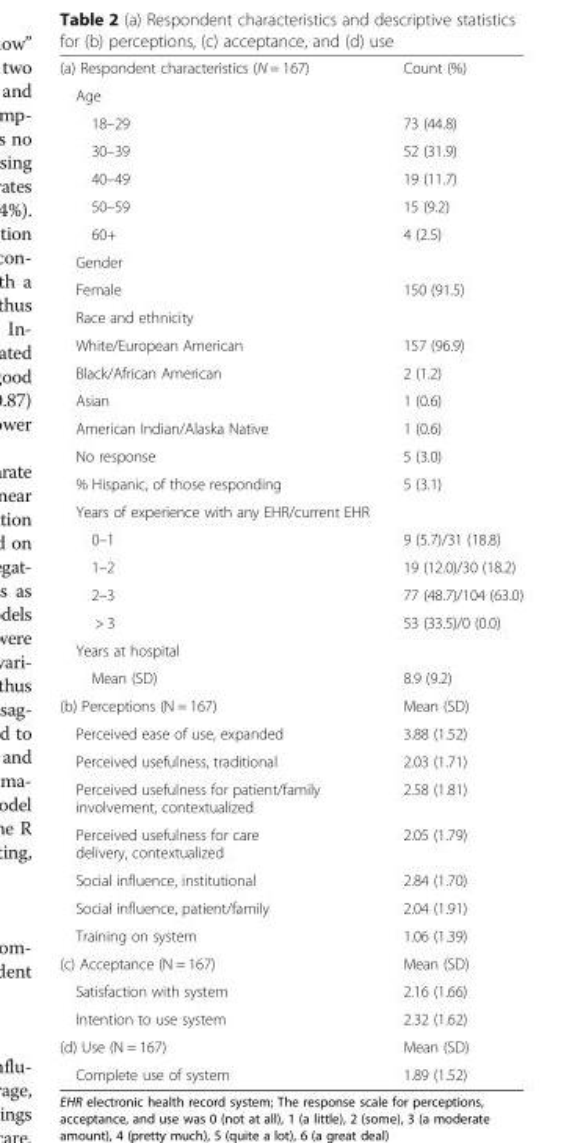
<table><tbody><tr><td>(a) Respondent characteristics (N = 167)</td><td>Count (%)</td></tr><tr><td colspan="2">Age</td></tr><tr><td>18–29</td><td>73 (44.8)</td></tr><tr><td>30–39</td><td>52 (31.9)</td></tr><tr><td>40–49</td><td>19 (11.7)</td></tr><tr><td>50–59</td><td>15 (9.2)</td></tr><tr><td>60+</td><td>4 (2.5)</td></tr><tr><td colspan="2">Gender</td></tr><tr><td>Female</td><td>150 (91.5)</td></tr><tr><td colspan="2">Race and ethnicity</td></tr><tr><td>White/European American</td><td>157 (96.9)</td></tr><tr><td>Black/African American</td><td>2 (1.2)</td></tr><tr><td>Asian</td><td>1 (0.6)</td></tr><tr><td>American Indian/Alaska Native</td><td>1 (0.6)</td></tr><tr><td>No response</td><td>5 (3.0)</td></tr><tr><td>% Hispanic, of those responding</td><td>5 (3.1)</td></tr><tr><td colspan="2">Years of experience with any EHR/current EHR</td></tr><tr><td>0–1</td><td>9 (5.7)/31 (18.8)</td></tr><tr><td>1–2</td><td>19 (12.0)/30 (18.2)</td></tr><tr><td>2–3</td><td>77 (48.7)/104 (63.0)</td></tr><tr><td>&gt; 3</td><td>53 (33.5)/0 (0.0)</td></tr><tr><td colspan="2">Years at hospital</td></tr><tr><td>Mean (SD)</td><td>8.9 (9.2)</td></tr><tr><td>(b) Perceptions (N = 167)</td><td>Mean (SD)</td></tr><tr><td>Perceived ease of use, expanded</td><td>3.88 (1.52)</td></tr><tr><td>Perceived usefulness, traditional</td><td>2.03 (1.71)</td></tr><tr><td>Perceived usefulness for patient/family involvement, contextualized</td><td>2.58 (1.81)</td></tr><tr><td>Perceived usefulness for care delivery, contextualized</td><td>2.05 (1.79)</td></tr><tr><td>Social influence, institutional</td><td>2.84 (1.70)</td></tr><tr><td>Social influence, patient/family</td><td>2.04 (1.91)</td></tr><tr><td>Training on system</td><td>1.06 (1.39)</td></tr><tr><td>(c) Acceptance (N = 167)</td><td>Mean (SD)</td></tr><tr><td>Satisfaction with system</td><td>2.16 (1.66)</td></tr><tr><td>Intention to use system</td><td>2.32 (1.62)</td></tr><tr><td>(d) Use (N = 167)</td><td>Mean (SD)</td></tr><tr><td>Complete use of system</td><td>1.89 (1.52)</td></tr></tbody></table>